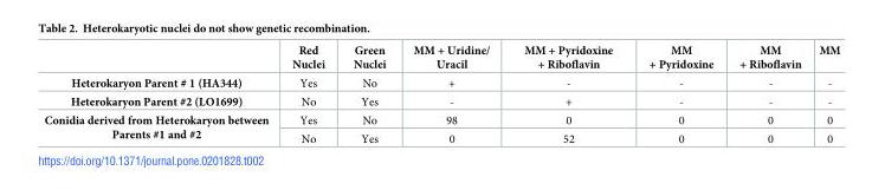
<table><thead><tr><td></td><td>Red Nuclei</td><td>Green Nuclei</td><td>MM + Uridine/ Uracil</td><td>MM + Pyridoxine + Riboflavin</td><td>MM + Pyridoxine</td><td>MM + Riboflavin</td><td>MM</td></tr></thead><tbody><tr><td>Heterokaryon Parent # 1 (HA344)</td><td>Yes</td><td>No</td><td>+</td><td>-</td><td>-</td><td>-</td><td>-</td></tr><tr><td>Heterokaryon Parent #2 (LO1699)</td><td>No</td><td>Yes</td><td>-</td><td>+</td><td>-</td><td>-</td><td>-</td></tr><tr><td rowspan="2">Conidia derived from Heterokaryon between Parents #1 and #2</td><td>Yes</td><td>No</td><td>98</td><td>0</td><td>0</td><td>0</td><td>0</td></tr><tr><td>No</td><td>Yes</td><td>0</td><td>52</td><td>0</td><td>0</td><td>0</td></tr></tbody></table>